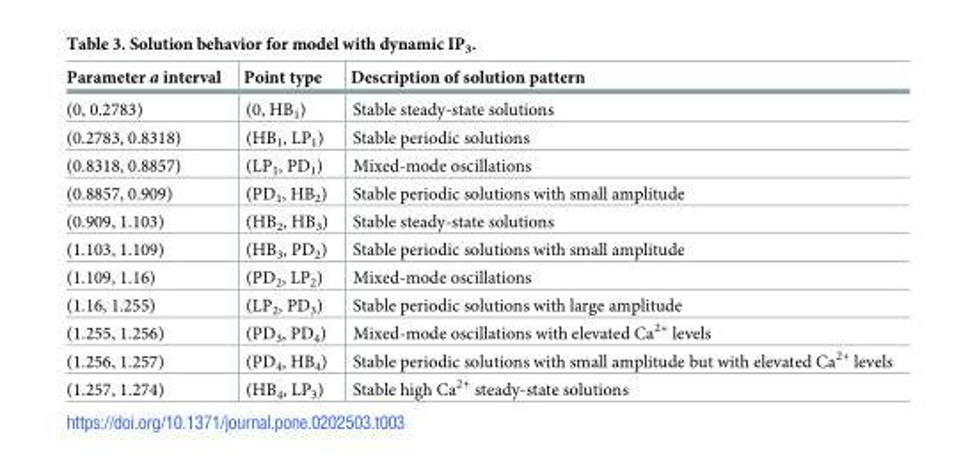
<table><thead><tr><td>Parameter a interval</td><td>Point type</td><td>Description of solution pattern</td></tr></thead><tbody><tr><td>(0, 0.2783)</td><td>(0, HB<sub>1</sub>)</td><td>Stable steady-state solutions</td></tr><tr><td>(0.2783, 0.8318)</td><td>(HB<sub>1</sub>, LP<sub>1</sub>)</td><td>Stable periodic solutions</td></tr><tr><td>(0.8318, 0.8857)</td><td>(LP<sub>1</sub>, PD<sub>1</sub>)</td><td>Mixed-mode oscillations</td></tr><tr><td>(0.8857, 0.909)</td><td>(PD<sub>1</sub>, HB<sub>2</sub>)</td><td>Stable periodic solutions with small amplitude</td></tr><tr><td>(0.909, 1.103)</td><td>(HB<sub>2</sub>, HB<sub>3</sub>)</td><td>Stable steady-state solutions</td></tr><tr><td>(1.103, 1.109)</td><td>(HB<sub>3</sub>, PD<sub>2</sub>)</td><td>Stable periodic solutions with small amplitude</td></tr><tr><td>(1.109, 1.16)</td><td>(PD<sub>2</sub>, LP<sub>2</sub>)</td><td>Mixed-mode oscillations</td></tr><tr><td>(1.16, 1.255)</td><td>(LP<sub>2</sub>, PD<sub>3</sub>)</td><td>Stable periodic solutions with large amplitude</td></tr><tr><td>(1.255, 1.256)</td><td>(PD<sub>3</sub>, PD<sub>4</sub>)</td><td>Mixed-mode oscillations with elevated Ca<sup>2+</sup> levels</td></tr><tr><td>(1.256, 1.257)</td><td>(PD<sub>4</sub>, HB<sub>4</sub>)</td><td>Stable periodic solutions with small amplitude but with elevated Ca<sup>2+</sup> levels</td></tr><tr><td>(1.257, 1.274)</td><td>(HB<sub>4</sub>, LP<sub>3</sub>)</td><td>Stable high Ca<sup>2+</sup> steady-state solutions</td></tr></tbody></table>